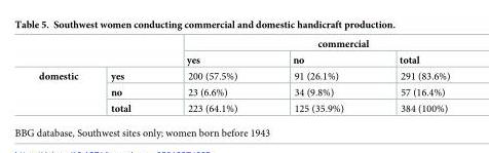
<table><thead><tr><td rowspan="2"></td><td rowspan="2"></td><td colspan="3">commercial</td></tr><tr><td>yes</td><td>no</td><td>total</td></tr></thead><tbody><tr><td rowspan="3">domestic</td><td>yes</td><td>200 (57.5%)</td><td>91 (26.1%)</td><td>291 (83.6%)</td></tr><tr><td>no</td><td>23 (6.6%)</td><td>34 (9.8%)</td><td>57 (16.4%)</td></tr><tr><td>total</td><td>223 (64.1%)</td><td>125 (35.9%)</td><td>384 (100%)</td></tr></tbody></table>